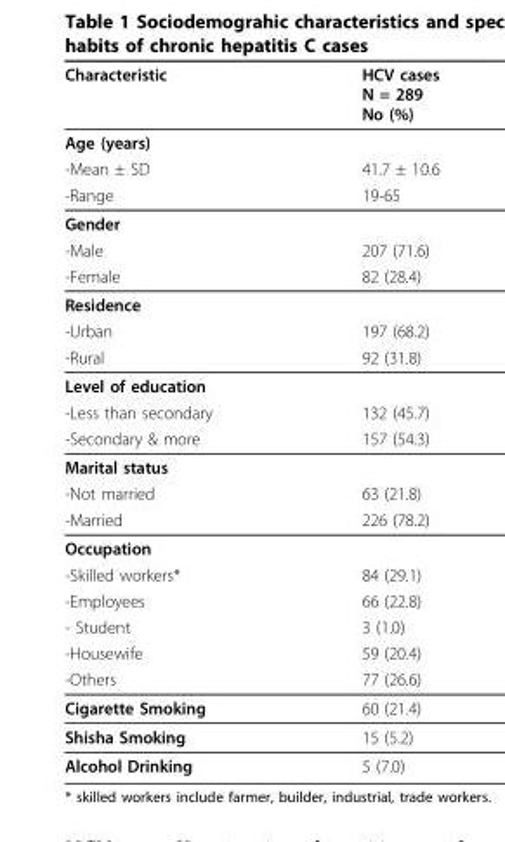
<table><thead><tr><td>Characteristic</td><td>HCV cases N = 289 No (%)</td></tr></thead><tbody><tr><td colspan="2">Age (years)</td></tr><tr><td>-Mean ± SD</td><td>41.7 ± 10.6</td></tr><tr><td>-Range</td><td>19-65</td></tr><tr><td colspan="2">Gender</td></tr><tr><td>-Male</td><td>207 (71.6)</td></tr><tr><td>-Female</td><td>82 (28.4)</td></tr><tr><td colspan="2">Residence</td></tr><tr><td>-Urban</td><td>197 (68.2)</td></tr><tr><td>-Rural</td><td>92 (31.8)</td></tr><tr><td colspan="2">Level of education</td></tr><tr><td>-Less than secondary</td><td>132 (45.7)</td></tr><tr><td>-Secondary &amp; more</td><td>157 (54.3)</td></tr><tr><td colspan="2">Marital status</td></tr><tr><td>-Not married</td><td>63 (21.8)</td></tr><tr><td>-Married</td><td>226 (78.2)</td></tr><tr><td colspan="2">Occupation</td></tr><tr><td>-Skilled workers*</td><td>84 (29.1)</td></tr><tr><td>-Employees</td><td>66 (22.8)</td></tr><tr><td>- Student</td><td>3 (1.0)</td></tr><tr><td>-Housewife</td><td>59 (20.4)</td></tr><tr><td>-Others</td><td>77 (26.6)</td></tr><tr><td>Cigarette Smoking</td><td>60 (21.4)</td></tr><tr><td>Shisha Smoking</td><td>15 (5.2)</td></tr><tr><td>Alcohol Drinking</td><td>5 (7.0)</td></tr></tbody></table>